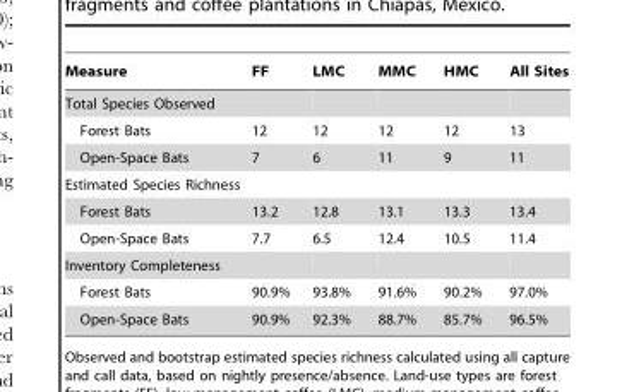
<table><thead><tr><td>Measure</td><td>FF</td><td>LMC</td><td>MMC</td><td>HMC</td><td>All Sites</td></tr></thead><tbody><tr><td colspan="6">Total Species Observed</td></tr><tr><td>Forest Bats</td><td>12</td><td>12</td><td>12</td><td>12</td><td>13</td></tr><tr><td>Open-Space Bats</td><td>7</td><td>6</td><td>11</td><td>9</td><td>11</td></tr><tr><td colspan="6">Estimated Species Richness</td></tr><tr><td>Forest Bats</td><td>13.2</td><td>12.8</td><td>13.1</td><td>13.3</td><td>13.4</td></tr><tr><td>Open-Space Bats</td><td>7.7</td><td>6.5</td><td>12.4</td><td>10.5</td><td>11.4</td></tr><tr><td colspan="6">Inventory Completeness</td></tr><tr><td>Forest Bats</td><td>90.9%</td><td>93.8%</td><td>91.6%</td><td>90.2%</td><td>97.0%</td></tr><tr><td>Open-Space Bats</td><td>90.9%</td><td>92.3%</td><td>88.7%</td><td>85.7%</td><td>96.5%</td></tr></tbody></table>